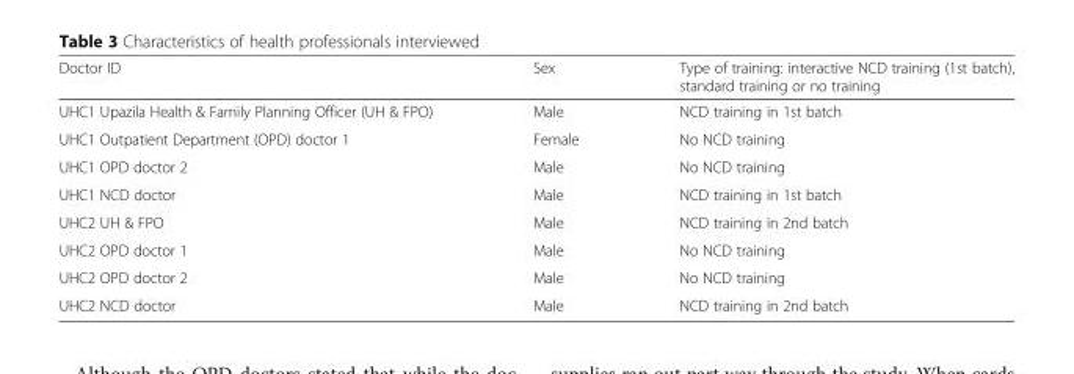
<table><thead><tr><td>Doctor ID</td><td>Sex</td><td>Type of training: interactive NCD training (1st batch), standard training or no training</td></tr></thead><tbody><tr><td>UHC1 Upazila Health &amp; Family Planning Officer (UH &amp; FPO)</td><td>Male</td><td>NCD training in 1st batch</td></tr><tr><td>UHC1 Outpatient Department (OPD) doctor 1</td><td>Female</td><td>No NCD training</td></tr><tr><td>UHC1 OPD doctor 2</td><td>Male</td><td>No NCD training</td></tr><tr><td>UHC1 NCD doctor</td><td>Male</td><td>NCD training in 1st batch</td></tr><tr><td>UHC2 UH &amp; FPO</td><td>Male</td><td>NCD training in 2nd batch</td></tr><tr><td>UHC2 OPD doctor 1</td><td>Male</td><td>No NCD training</td></tr><tr><td>UHC2 OPD doctor 2</td><td>Male</td><td>No NCD training</td></tr><tr><td>UHC2 NCD doctor</td><td>Male</td><td>NCD training in 2nd batch</td></tr></tbody></table>